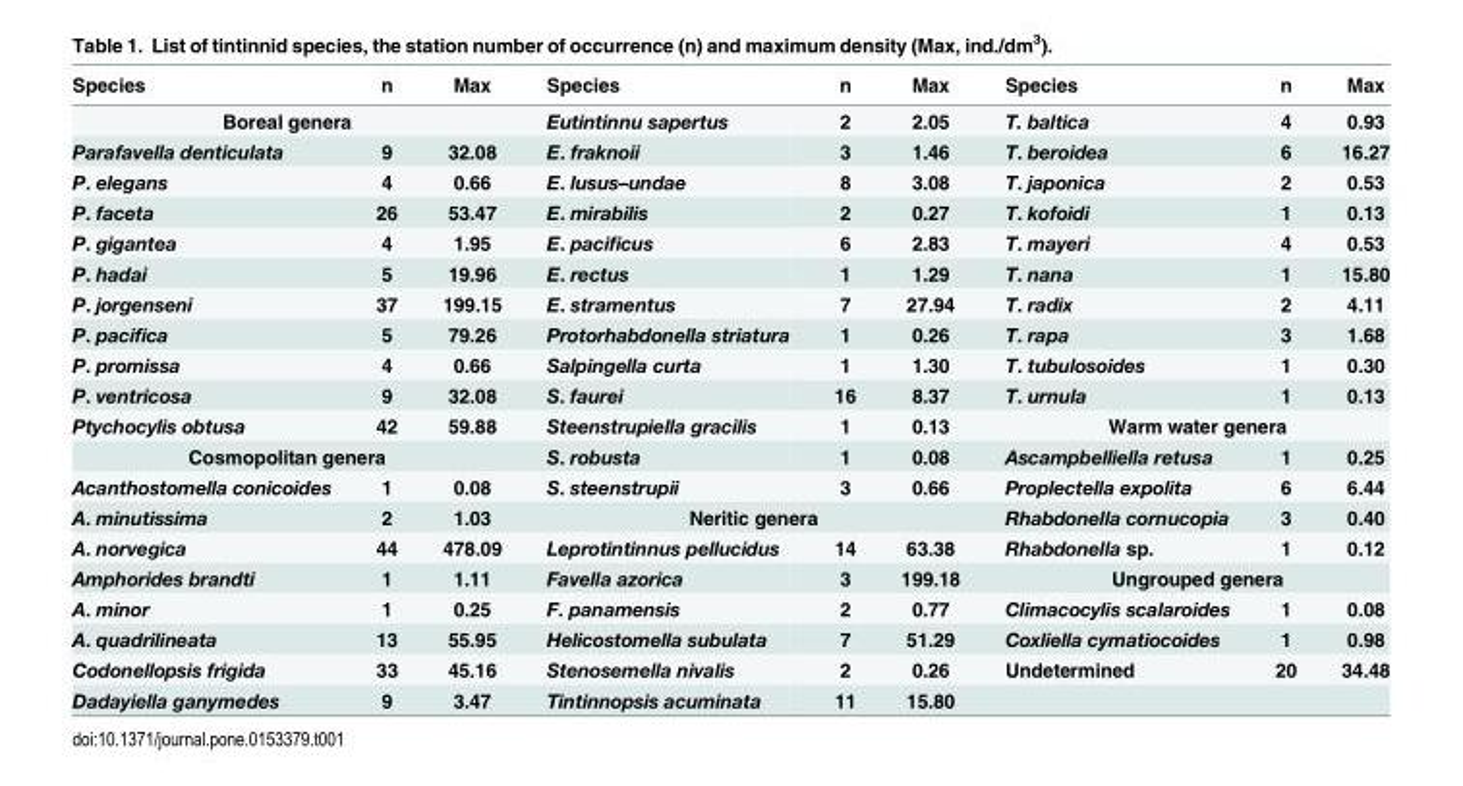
<table><thead><tr><td>Species</td><td>n</td><td>Max</td><td>Species</td><td>n</td><td>Max</td><td>Species</td><td>n</td><td>Max</td></tr></thead><tbody><tr><td colspan="3">Boreal genera</td><td>Eutintinnu sapertus</td><td>2</td><td>2.05</td><td>T. baltica</td><td>4</td><td>0.93</td></tr><tr><td>Parafavella denticulata</td><td>9</td><td>32.08</td><td>E. fraknoii</td><td>3</td><td>1.46</td><td>T. beroidea</td><td>6</td><td>16.27</td></tr><tr><td>P. elegans</td><td>4</td><td>0.66</td><td>E. lusus–undae</td><td>8</td><td>3.08</td><td>T. japonica</td><td>2</td><td>0.53</td></tr><tr><td>P. faceta</td><td>26</td><td>53.47</td><td>E. mirabilis</td><td>2</td><td>0.27</td><td>T. kofoidi</td><td>1</td><td>0.13</td></tr><tr><td>P. gigantea</td><td>4</td><td>1.95</td><td>E. pacificus</td><td>6</td><td>2.83</td><td>T. mayeri</td><td>4</td><td>0.53</td></tr><tr><td>P. hadai</td><td>5</td><td>19.96</td><td>E. rectus</td><td>1</td><td>1.29</td><td>T. nana</td><td>1</td><td>15.80</td></tr><tr><td>P. jorgenseni</td><td>37</td><td>199.15</td><td>E. stramentus</td><td>7</td><td>27.94</td><td>T. radix</td><td>2</td><td>4.11</td></tr><tr><td>P. pacifica</td><td>5</td><td>79.26</td><td>Protorhabdonella striatura</td><td>1</td><td>0.26</td><td>T. rapa</td><td>3</td><td>1.68</td></tr><tr><td>P. promissa</td><td>4</td><td>0.66</td><td>Salpingella curta</td><td>1</td><td>1.30</td><td>T. tubulosoides</td><td>1</td><td>0.30</td></tr><tr><td>P. ventricosa</td><td>9</td><td>32.08</td><td>S. faurei</td><td>16</td><td>8.37</td><td>T. urnula</td><td>1</td><td>0.13</td></tr><tr><td>Ptychocylis obtusa</td><td>42</td><td>59.88</td><td>Steenstrupiella gracilis</td><td>1</td><td>0.13</td><td colspan="3">Warm water genera</td></tr><tr><td colspan="3">Cosmopolitan genera</td><td>S. robusta</td><td>1</td><td>0.08</td><td>Ascampbelliella retusa</td><td>1</td><td>0.25</td></tr><tr><td>Acanthostomella conicoides</td><td>1</td><td>0.08</td><td>S. steenstrupii</td><td>3</td><td>0.66</td><td>Proplectella expolita</td><td>6</td><td>6.44</td></tr><tr><td>A. minutissima</td><td>2</td><td>1.03</td><td colspan="3">Neritic genera</td><td>Rhabdonella cornucopia</td><td>3</td><td>0.40</td></tr><tr><td>A. norvegica</td><td>44</td><td>478.09</td><td>Leprotintinnus pellucidus</td><td>14</td><td>63.38</td><td>Rhabdonella sp.</td><td>1</td><td>0.12</td></tr><tr><td>Amphorides brandti</td><td>1</td><td>1.11</td><td>Favella azorica</td><td>3</td><td>199.18</td><td colspan="3">Ungrouped genera</td></tr><tr><td>A. minor</td><td>1</td><td>0.25</td><td>F. panamensis</td><td>2</td><td>0.77</td><td>Climacocylis scalaroides</td><td>1</td><td>0.08</td></tr><tr><td>A. quadrilineata</td><td>13</td><td>55.95</td><td>Helicostomella subulata</td><td>7</td><td>51.29</td><td>Coxliella cymatiocoides</td><td>1</td><td>0.98</td></tr><tr><td>Codonellopsis frigida</td><td>33</td><td>45.16</td><td>Stenosemella nivalis</td><td>2</td><td>0.26</td><td>Undetermined</td><td>20</td><td>34.48</td></tr><tr><td>Dadayiella ganymedes</td><td>9</td><td>3.47</td><td>Tintinnopsis acuminata</td><td>11</td><td>15.80</td><td></td><td></td><td></td></tr></tbody></table>